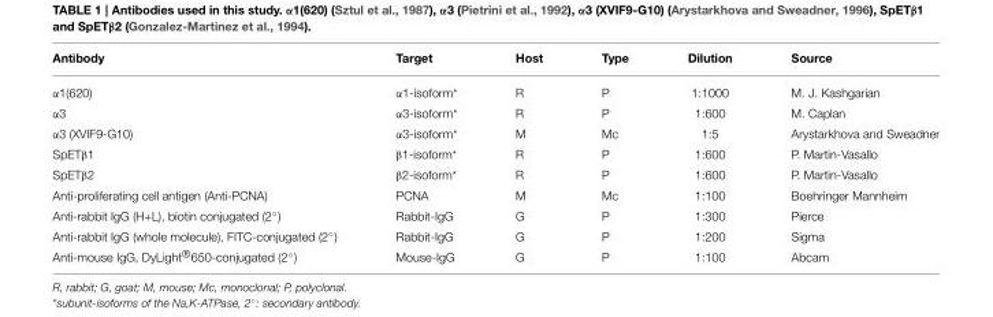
<table><thead><tr><td>Antibody</td><td>Target</td><td>Host</td><td>Type</td><td>Dilution</td><td>Source</td></tr></thead><tbody><tr><td>α1(620)</td><td>α1-isoform*</td><td>R</td><td>P</td><td>1:1000</td><td>M. J. Kashgarian</td></tr><tr><td>α3</td><td>α3-isoform*</td><td>R</td><td>P</td><td>1:600</td><td>M. Caplan</td></tr><tr><td>α3 (XVIF9-G10)</td><td>α3-isoform*</td><td>M</td><td>Mc</td><td>1:5</td><td>Arystarkhova and Sweadner</td></tr><tr><td>SpETβ1</td><td>β1-isoform*</td><td>R</td><td>P</td><td>1:600</td><td>P. Martin-Vasallo</td></tr><tr><td>SpETβ2</td><td>β2-isoform*</td><td>R</td><td>P</td><td>1:600</td><td>P. Martin-Vasallo</td></tr><tr><td>Anti-proliferating cell antigen (Anti-PCNA)</td><td>PCNA</td><td>M</td><td>Mc</td><td>1:100</td><td>Boehringer Mannheim</td></tr><tr><td>Anti-rabbit IgG (H+L), biotin conjugated (2◦)</td><td>Rabbit-IgG</td><td>G</td><td>P</td><td>1:300</td><td>Pierce</td></tr><tr><td>Anti-rabbit IgG (whole molecule), FITC-conjugated (2◦)</td><td>Rabbit-IgG</td><td>G</td><td>P</td><td>1:200</td><td>Sigma</td></tr><tr><td>Anti-mouse IgG, DyLight®650-conjugated (2◦)</td><td>Mouse-IgG</td><td>G</td><td>P</td><td>1:100</td><td>Abcam</td></tr></tbody></table>